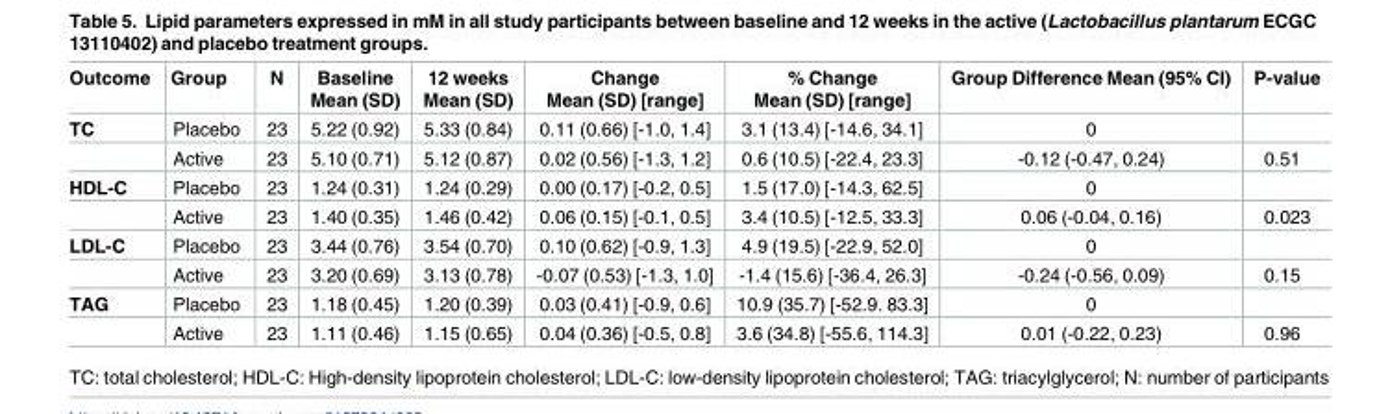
<table><thead><tr><td>Outcome</td><td>Group</td><td>N</td><td>Baseline Mean (SD)</td><td>12 weeks Mean (SD)</td><td>Change Mean (SD) [range]</td><td>% Change Mean (SD) [range]</td><td>Group Difference Mean (95% CI)</td><td>P-value</td></tr></thead><tbody><tr><td rowspan="2">TC</td><td>Placebo</td><td>23</td><td>5.22 (0.92)</td><td>5.33 (0.84)</td><td>0.11 (0.66) [-1.0, 1.4]</td><td>3.1 (13.4) [-14.6, 34.1]</td><td>0</td><td></td></tr><tr><td>Active</td><td>23</td><td>5.10 (0.71)</td><td>5.12 (0.87)</td><td>0.02 (0.56) [-1.3, 1.2]</td><td>0.6 (10.5) [-22.4, 23.3]</td><td>-0.12 (-0.47, 0.24)</td><td>0.51</td></tr><tr><td rowspan="2">HDL-C</td><td>Placebo</td><td>23</td><td>1.24 (0.31)</td><td>1.24 (0.29)</td><td>0.00 (0.17) [-0.2, 0.5]</td><td>1.5 (17.0) [-14.3, 62.5]</td><td>0</td><td></td></tr><tr><td>Active</td><td>23</td><td>1.40 (0.35)</td><td>1.46 (0.42)</td><td>0.06 (0.15) [-0.1, 0.5]</td><td>3.4 (10.5) [-12.5, 33.3]</td><td>0.06 (-0.04, 0.16)</td><td>0.023</td></tr><tr><td rowspan="2">LDL-C</td><td>Placebo</td><td>23</td><td>3.44 (0.76)</td><td>3.54 (0.70)</td><td>0.10 (0.62) [-0.9, 1.3]</td><td>4.9 (19.5) [-22.9, 52.0]</td><td>0</td><td></td></tr><tr><td>Active</td><td>23</td><td>3.20 (0.69)</td><td>3.13 (0.78)</td><td>-0.07 (0.53) [-1.3, 1.0]</td><td>-1.4 (15.6) [-36.4, 26.3]</td><td>-0.24 (-0.56, 0.09)</td><td>0.15</td></tr><tr><td rowspan="2">TAG</td><td>Placebo</td><td>23</td><td>1.18 (0.45)</td><td>1.20 (0.39)</td><td>0.03 (0.41) [-0.9, 0.6]</td><td>10.9 (35.7) [-52.9. 83.3]</td><td>0</td><td></td></tr><tr><td>Active</td><td>23</td><td>1.11 (0.46)</td><td>1.15 (0.65)</td><td>0.04 (0.36) [-0.5, 0.8]</td><td>3.6 (34.8) [-55.6, 114.3]</td><td>0.01 (-0.22, 0.23)</td><td>0.96</td></tr></tbody></table>